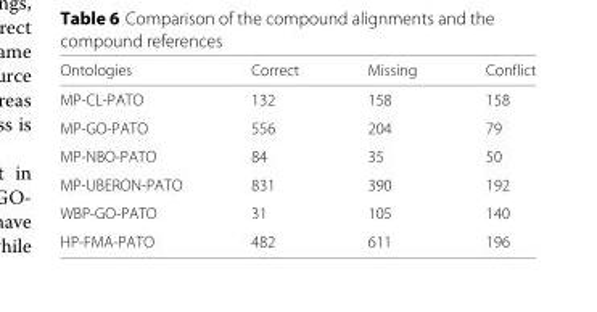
<table><thead><tr><td>Ontologies</td><td>Correct</td><td>Missing</td><td>Conflict</td></tr></thead><tbody><tr><td>MP-CL-PATO</td><td>132</td><td>158</td><td>158</td></tr><tr><td>MP-GO-PATO</td><td>556</td><td>204</td><td>79</td></tr><tr><td>MP-NBO-PATO</td><td>84</td><td>35</td><td>50</td></tr><tr><td>MP-UBERON-PATO</td><td>831</td><td>390</td><td>192</td></tr><tr><td>WBP-GO-PATO</td><td>31</td><td>105</td><td>140</td></tr><tr><td>HP-FMA-PATO</td><td>482</td><td>611</td><td>196</td></tr></tbody></table>